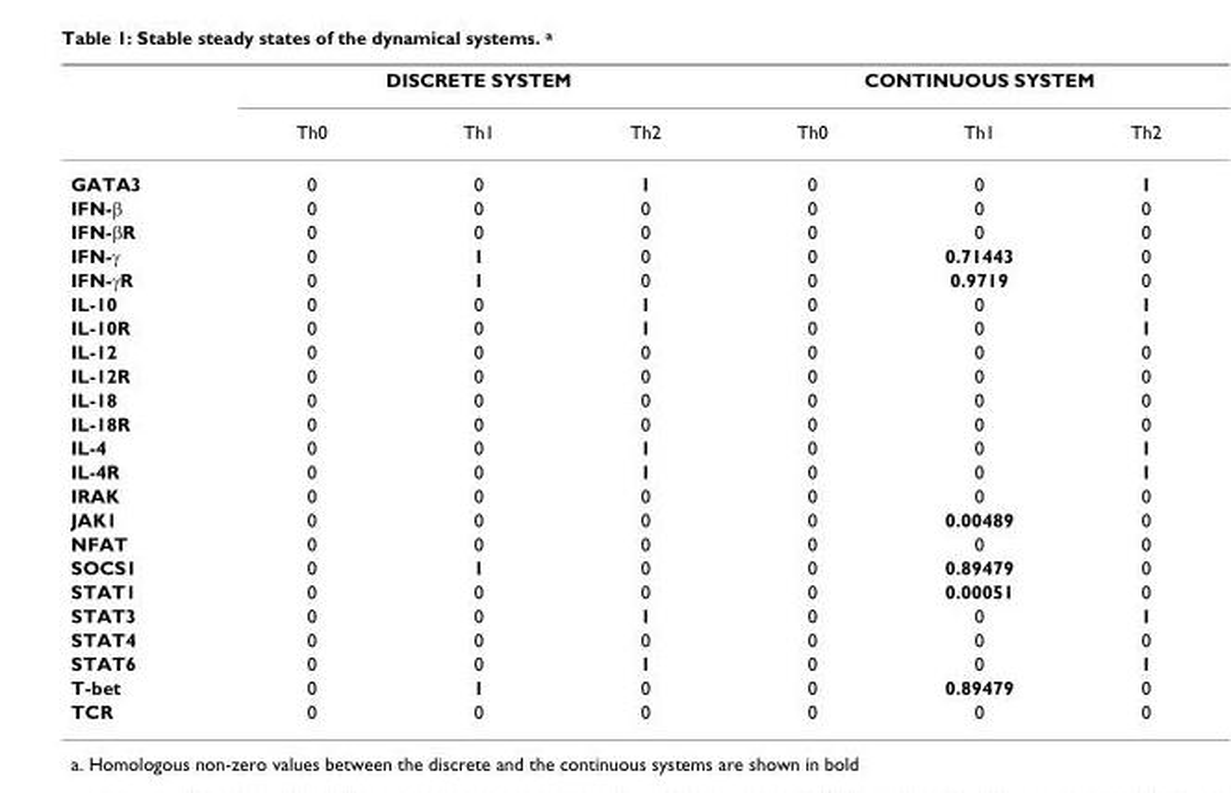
<table><thead><tr><td rowspan="2"></td><td colspan="3">DISCRETE SYSTEM</td><td colspan="3">CONTINUOUS SYSTEM</td></tr><tr><td>Th0</td><td>Th1</td><td>Th2</td><td>Th0</td><td>Th1</td><td>Th2</td></tr></thead><tbody><tr><td>GATA3</td><td>0</td><td>0</td><td>1</td><td>0</td><td>0</td><td>1</td></tr><tr><td>IFN-β</td><td>0</td><td>0</td><td>0</td><td>0</td><td>0</td><td>0</td></tr><tr><td>IFN-βR</td><td>0</td><td>0</td><td>0</td><td>0</td><td>0</td><td>0</td></tr><tr><td>IFN-γ</td><td>0</td><td>1</td><td>0</td><td>0</td><td>0.71443</td><td>0</td></tr><tr><td>IFN-γR</td><td>0</td><td>1</td><td>0</td><td>0</td><td>0.9719</td><td>0</td></tr><tr><td>IL-10</td><td>0</td><td>0</td><td>1</td><td>0</td><td>0</td><td>1</td></tr><tr><td>IL-10R</td><td>0</td><td>0</td><td>1</td><td>0</td><td>0</td><td>1</td></tr><tr><td>IL-12</td><td>0</td><td>0</td><td>0</td><td>0</td><td>0</td><td>0</td></tr><tr><td>IL-12R</td><td>0</td><td>0</td><td>0</td><td>0</td><td>0</td><td>0</td></tr><tr><td>IL-18</td><td>0</td><td>0</td><td>0</td><td>0</td><td>0</td><td>0</td></tr><tr><td>IL-18R</td><td>0</td><td>0</td><td>0</td><td>0</td><td>0</td><td>0</td></tr><tr><td>IL-4</td><td>0</td><td>0</td><td>1</td><td>0</td><td>0</td><td>1</td></tr><tr><td>IL-4R</td><td>0</td><td>0</td><td>1</td><td>0</td><td>0</td><td>1</td></tr><tr><td>IRAK</td><td>0</td><td>0</td><td>0</td><td>0</td><td>0</td><td>0</td></tr><tr><td>JAK1</td><td>0</td><td>0</td><td>0</td><td>0</td><td>0.00489</td><td>0</td></tr><tr><td>NFAT</td><td>0</td><td>0</td><td>0</td><td>0</td><td>0</td><td>0</td></tr><tr><td>SOCS1</td><td>0</td><td>1</td><td>0</td><td>0</td><td>0.89479</td><td>0</td></tr><tr><td>STAT1</td><td>0</td><td>0</td><td>0</td><td>0</td><td>0.00051</td><td>0</td></tr><tr><td>STAT3</td><td>0</td><td>0</td><td>1</td><td>0</td><td>0</td><td>1</td></tr><tr><td>STAT4</td><td>0</td><td>0</td><td>0</td><td>0</td><td>0</td><td>0</td></tr><tr><td>STAT6</td><td>0</td><td>0</td><td>1</td><td>0</td><td>0</td><td>1</td></tr><tr><td>T-bet</td><td>0</td><td>1</td><td>0</td><td>0</td><td>0.89479</td><td>0</td></tr><tr><td>TCR</td><td>0</td><td>0</td><td>0</td><td>0</td><td>0</td><td>0</td></tr></tbody></table>